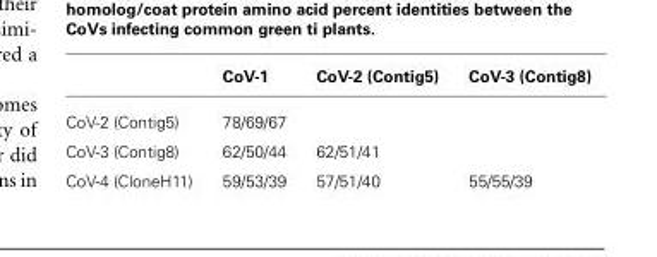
<table><thead><tr><td></td><td>CoV-1</td><td>CoV-2 (Contig5)</td><td>CoV-3 (Contig8)</td></tr></thead><tbody><tr><td>CoV-2 (Contig5)</td><td>78/69/67</td><td></td><td></td></tr><tr><td>CoV-3 (Contig8)</td><td>62/50/44</td><td>62/51/41</td><td></td></tr><tr><td>CoV-4 (CloneH11)</td><td>59/53/39</td><td>57/51/40</td><td>55/55/39</td></tr></tbody></table>